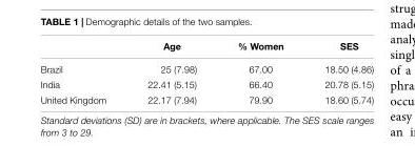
<table><thead><tr><td></td><td>Age</td><td>% Women</td><td>SES</td></tr></thead><tbody><tr><td>Brazil</td><td>25 (7.98)</td><td>67.00</td><td>18.50 (4.86)</td></tr><tr><td>India</td><td>22.41 (5.15)</td><td>66.40</td><td>20.78 (5.15)</td></tr><tr><td>United Kingdom</td><td>22.17 (7.94)</td><td>79.90</td><td>18.60 (5.74)</td></tr></tbody></table>